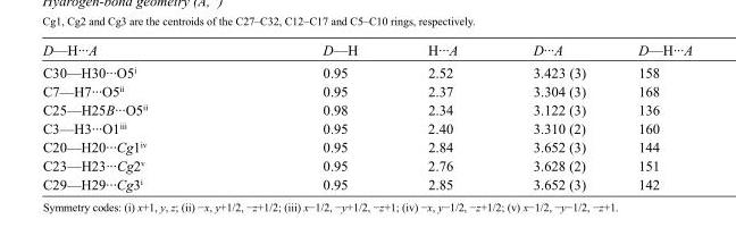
<table><tbody><tr><td>D—H···A</td><td>D—H</td><td>H···A</td><td>D···A</td><td>D—H···A</td></tr><tr><td>C30—H30···O5<sup>i</sup></td><td>0.95</td><td>2.52</td><td>3.423 (3)</td><td>158</td></tr><tr><td>C7—H7···O5<sup>ii</sup></td><td>0.95</td><td>2.37</td><td>3.304 (3)</td><td>168</td></tr><tr><td>C25—H25B···O5<sup>ii</sup></td><td>0.98</td><td>2.34</td><td>3.122 (3)</td><td>136</td></tr><tr><td>C3—H3···O1<sup>iii</sup></td><td>0.95</td><td>2.40</td><td>3.310 (2)</td><td>160</td></tr><tr><td>C20—H20···Cg1<sup>iv</sup></td><td>0.95</td><td>2.84</td><td>3.652 (3)</td><td>144</td></tr><tr><td>C23—H23···Cg2<sup>v</sup></td><td>0.95</td><td>2.76</td><td>3.628 (2)</td><td>151</td></tr><tr><td>C29—H29···Cg3<sup>i</sup></td><td>0.95</td><td>2.85</td><td>3.652 (3)</td><td>142</td></tr></tbody></table>